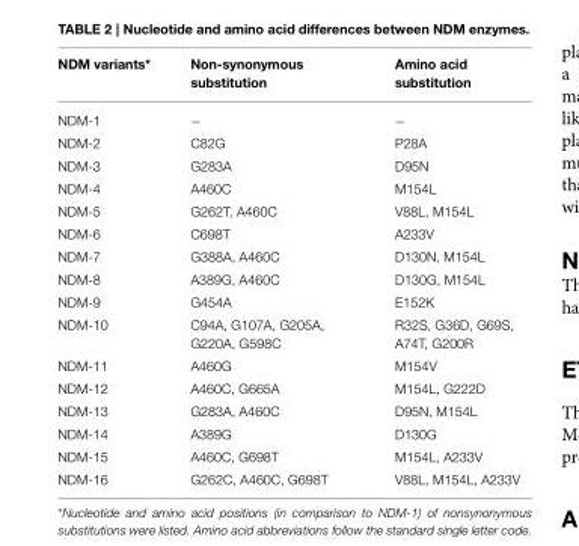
<table><thead><tr><td>NDM variants*</td><td>Non-synonymous substitution</td><td>Amino acid substitution</td></tr></thead><tbody><tr><td>NDM-1</td><td>−</td><td>−</td></tr><tr><td>NDM-2</td><td>C82G</td><td>P28A</td></tr><tr><td>NDM-3</td><td>G283A</td><td>D95N</td></tr><tr><td>NDM-4</td><td>A460C</td><td>M154L</td></tr><tr><td>NDM-5</td><td>G262T, A460C</td><td>V88L, M154L</td></tr><tr><td>NDM-6</td><td>C698T</td><td>A233V</td></tr><tr><td>NDM-7</td><td>G388A, A460C</td><td>D130N, M154L</td></tr><tr><td>NDM-8</td><td>A389G, A460C</td><td>D130G, M154L</td></tr><tr><td>NDM-9</td><td>G454A</td><td>E152K</td></tr><tr><td>NDM-10</td><td>C94A, G107A, G205A, G220A, G598C</td><td>R32S, G36D, G69S, A74T, G200R</td></tr><tr><td>NDM-11</td><td>A460G</td><td>M154V</td></tr><tr><td>NDM-12</td><td>A460C, G665A</td><td>M154L, G222D</td></tr><tr><td>NDM-13</td><td>G283A, A460C</td><td>D95N, M154L</td></tr><tr><td>NDM-14</td><td>A389G</td><td>D130G</td></tr><tr><td>NDM-15</td><td>A460C, G698T</td><td>M154L, A233V</td></tr><tr><td>NDM-16</td><td>G262C, A460C, G698T</td><td>V88L, M154L, A233V</td></tr></tbody></table>